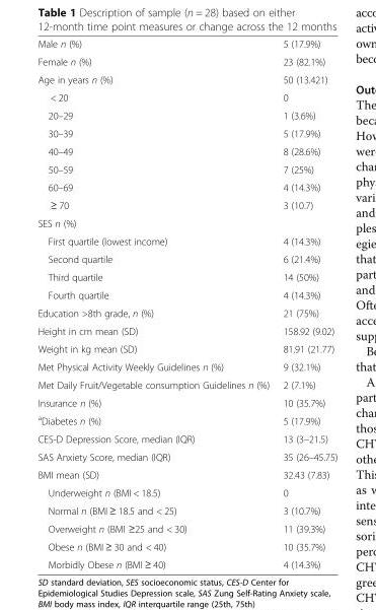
<table><tbody><tr><td>Male n (%)</td><td>5 (17.9%)</td></tr><tr><td>Female n (%)</td><td>23 (82.1%)</td></tr><tr><td>Age in years n (%)</td><td>50 (13.421)</td></tr><tr><td>&lt; 20</td><td>0</td></tr><tr><td>20–29</td><td>1 (3.6%)</td></tr><tr><td>30–39</td><td>5 (17.9%)</td></tr><tr><td>40–49</td><td>8 (28.6%)</td></tr><tr><td>50–59</td><td>7 (25%)</td></tr><tr><td>60–69</td><td>4 (14.3%)</td></tr><tr><td>≥ 70</td><td>3 (10.7)</td></tr><tr><td colspan="2">SES n (%)</td></tr><tr><td>First quartile (lowest income)</td><td>4 (14.3%)</td></tr><tr><td>Second quartile</td><td>6 (21.4%)</td></tr><tr><td>Third quartile</td><td>14 (50%)</td></tr><tr><td>Fourth quartile</td><td>4 (14.3%)</td></tr><tr><td>Education &gt;8th grade, n (%)</td><td>21 (75%)</td></tr><tr><td>Height in cm mean (SD)</td><td>158.92 (9.02)</td></tr><tr><td>Weight in kg mean (SD)</td><td>81.91 (21.77)</td></tr><tr><td>Met Physical Activity Weekly Guidelines n (%)</td><td>9 (32.1%)</td></tr><tr><td>Met Daily Fruit/Vegetable consumption Guidelines n (%)</td><td>2 (7.1%)</td></tr><tr><td>Insurance n (%)</td><td>10 (35.7%)</td></tr><tr><td><sup>a</sup>Diabetes n (%)</td><td>5 (17.9%)</td></tr><tr><td>CES-D Depression Score, median (IQR)</td><td>13 (3–21.5)</td></tr><tr><td>SAS Anxiety Score, median (IQR)</td><td>35 (26–45.75)</td></tr><tr><td>BMI mean (SD)</td><td>32.43 (7.83)</td></tr><tr><td>Underweight n (BMI &lt; 18.5)</td><td>0</td></tr><tr><td>Normal n (BMI ≥ 18.5 and &lt; 25)</td><td>3 (10.7%)</td></tr><tr><td>Overweight n (BMI ≥25 and &lt; 30)</td><td>11 (39.3%)</td></tr><tr><td>Obese n (BMI ≥ 30 and &lt; 40)</td><td>10 (35.7%)</td></tr><tr><td>Morbidly Obese n (BMI ≥ 40)</td><td>4 (14.3%)</td></tr></tbody></table>